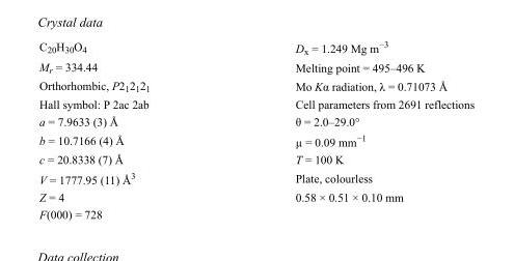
<table><tbody><tr><td>C<sub>20</sub>H<sub>30</sub>O<sub>4</sub></td><td>D<sub>x</sub> = 1.249 Mg m<sup>−3</sup></td></tr><tr><td>M<sub>r</sub> = 334.44</td><td>Melting point = 495–496 K</td></tr><tr><td>Orthorhombic, P2<sub>1</sub>2<sub>1</sub>2<sub>1</sub></td><td>Mo Kα radiation, λ = 0.71073 Å</td></tr><tr><td>Hall symbol: P 2ac 2ab</td><td>Cell parameters from 2691 reflections</td></tr><tr><td>a = 7.9633 (3) Å</td><td>θ = 2.0–29.0°</td></tr><tr><td>b = 10.7166 (4) Å</td><td>µ = 0.09 mm<sup>−1</sup></td></tr><tr><td>c = 20.8338 (7) Å</td><td>T = 100 K</td></tr><tr><td>V = 1777.95 (11) Å<sup>3</sup></td><td>Plate, colourless</td></tr><tr><td>Z = 4</td><td>0.58 × 0.51 × 0.10 mm</td></tr><tr><td>F(000) = 728</td><td></td></tr></tbody></table>